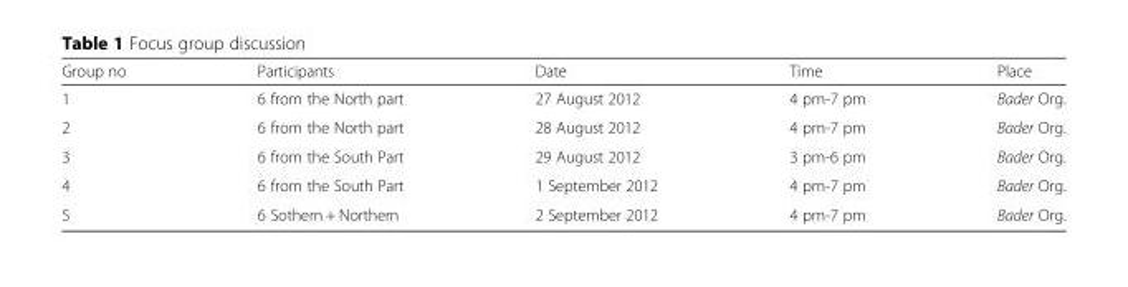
<table><thead><tr><td>Group no</td><td>Participants</td><td>Date</td><td>Time</td><td>Place</td></tr></thead><tbody><tr><td>1</td><td>6 from the North part</td><td>27 August 2012</td><td>4 pm-7 pm</td><td>Bader Org.</td></tr><tr><td>2</td><td>6 from the North part</td><td>28 August 2012</td><td>4 pm-7 pm</td><td>Bader Org.</td></tr><tr><td>3</td><td>6 from the South Part</td><td>29 August 2012</td><td>3 pm-6 pm</td><td>Bader Org.</td></tr><tr><td>4</td><td>6 from the South Part</td><td>1 September 2012</td><td>4 pm-7 pm</td><td>Bader Org.</td></tr><tr><td>5</td><td>6 Sothern + Northern</td><td>2 September 2012</td><td>4 pm-7 pm</td><td>Bader Org.</td></tr></tbody></table>